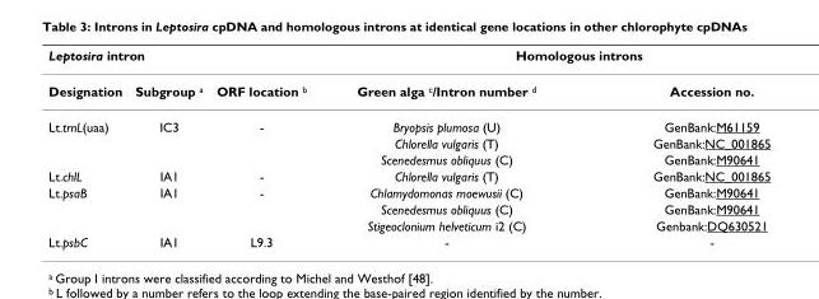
<table><thead><tr><td colspan="3">Leptosira intron</td><td colspan="2">Homologous introns</td></tr><tr><td>Designation</td><td>Subgroup <sup>a</sup></td><td>ORF location <sup>b</sup></td><td>Green alga <sup>c</sup>/Intron number <sup>d</sup></td><td>Accession no.</td></tr></thead><tbody><tr><td rowspan="3">Lt.trnL(uaa)</td><td>IC3</td><td>-</td><td>Bryopsis plumosa (U)</td><td>GenBank:M61159</td></tr><tr><td></td><td></td><td>Chlorella vulgaris (T)</td><td>GenBank:NC_001865</td></tr><tr><td></td><td></td><td>Scenedesmus obliquus (C)</td><td>GenBank:M90641</td></tr><tr><td>Lt.chlL</td><td>IA1</td><td>-</td><td>Chlorella vulgaris (T)</td><td>GenBank:NC_001865</td></tr><tr><td rowspan="3">Lt.psaB</td><td>IA1</td><td>-</td><td>Chlamydomonas moewusii (C)</td><td>GenBank:M90641</td></tr><tr><td></td><td></td><td>Scenedesmus obliquus (C)</td><td>GenBank:M90641</td></tr><tr><td></td><td></td><td>Stigeoclonium helveticum i2 (C)</td><td>Genbank:DQ630521</td></tr><tr><td>Lt.psbC</td><td>IA1</td><td>L9.3</td><td>-</td><td>-</td></tr></tbody></table>